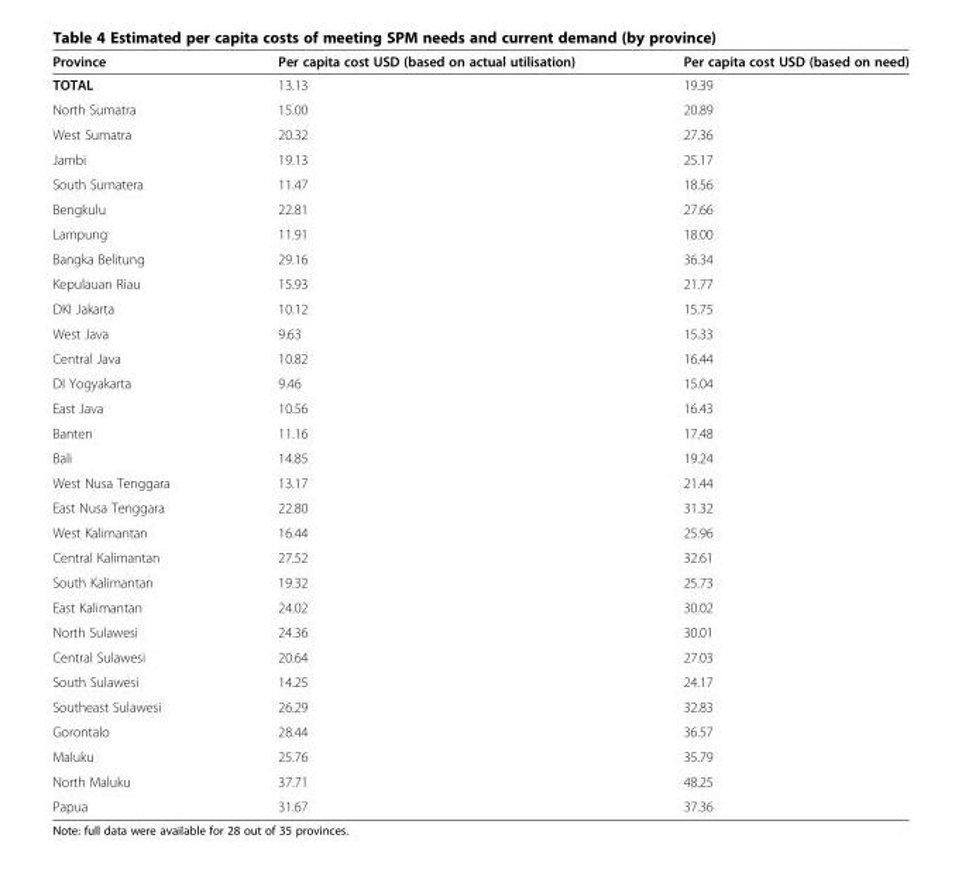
<table><thead><tr><td>Province</td><td>Per capita cost USD (based on actual utilisation)</td><td>Per capita cost USD (based on need)</td></tr></thead><tbody><tr><td>TOTAL</td><td>13.13</td><td>19.39</td></tr><tr><td>North Sumatra</td><td>15.00</td><td>20.89</td></tr><tr><td>West Sumatra</td><td>20.32</td><td>27.36</td></tr><tr><td>Jambi</td><td>19.13</td><td>25.17</td></tr><tr><td>South Sumatera</td><td>11.47</td><td>18.56</td></tr><tr><td>Bengkulu</td><td>22.81</td><td>27.66</td></tr><tr><td>Lampung</td><td>11.91</td><td>18.00</td></tr><tr><td>Bangka Belitung</td><td>29.16</td><td>36.34</td></tr><tr><td>Kepulauan Riau</td><td>15.93</td><td>21.77</td></tr><tr><td>DKI Jakarta</td><td>10.12</td><td>15.75</td></tr><tr><td>West Java</td><td>9.63</td><td>15.33</td></tr><tr><td>Central Java</td><td>10.82</td><td>16.44</td></tr><tr><td>DI Yogyakarta</td><td>9.46</td><td>15.04</td></tr><tr><td>East Java</td><td>10.56</td><td>16.43</td></tr><tr><td>Banten</td><td>11.16</td><td>17.48</td></tr><tr><td>Bali</td><td>14.85</td><td>19.24</td></tr><tr><td>West Nusa Tenggara</td><td>13.17</td><td>21.44</td></tr><tr><td>East Nusa Tenggara</td><td>22.80</td><td>31.32</td></tr><tr><td>West Kalimantan</td><td>16.44</td><td>25.96</td></tr><tr><td>Central Kalimantan</td><td>27.52</td><td>32.61</td></tr><tr><td>South Kalimantan</td><td>19.32</td><td>25.73</td></tr><tr><td>East Kalimantan</td><td>24.02</td><td>30.02</td></tr><tr><td>North Sulawesi</td><td>24.36</td><td>30.01</td></tr><tr><td>Central Sulawesi</td><td>20.64</td><td>27.03</td></tr><tr><td>South Sulawesi</td><td>14.25</td><td>24.17</td></tr><tr><td>Southeast Sulawesi</td><td>26.29</td><td>32.83</td></tr><tr><td>Gorontalo</td><td>28.44</td><td>36.57</td></tr><tr><td>Maluku</td><td>25.76</td><td>35.79</td></tr><tr><td>North Maluku</td><td>37.71</td><td>48.25</td></tr><tr><td>Papua</td><td>31.67</td><td>37.36</td></tr></tbody></table>